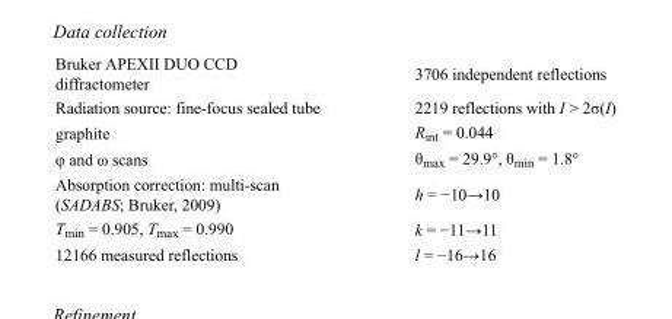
<table><tbody><tr><td>Bruker APEXII DUO CCD diffractometer</td><td>3706 independent reflections</td></tr><tr><td>Radiation source: fine-focus sealed tube</td><td>2219 reflections with I &gt; 2σ(I)</td></tr><tr><td>graphite</td><td>R<sub>int</sub> = 0.044</td></tr><tr><td>φ and ω scans</td><td>θ<sub>max</sub> = 29.9°, θ<sub>min</sub> = 1.8°</td></tr><tr><td>Absorption correction: multi-scan (SADABS; Bruker, 2009)</td><td>h = −10→10</td></tr><tr><td>T<sub>min</sub> = 0.905, T<sub>max</sub> = 0.990</td><td>k = −11→11</td></tr><tr><td>12166 measured reflections</td><td>l = −16→16</td></tr></tbody></table>